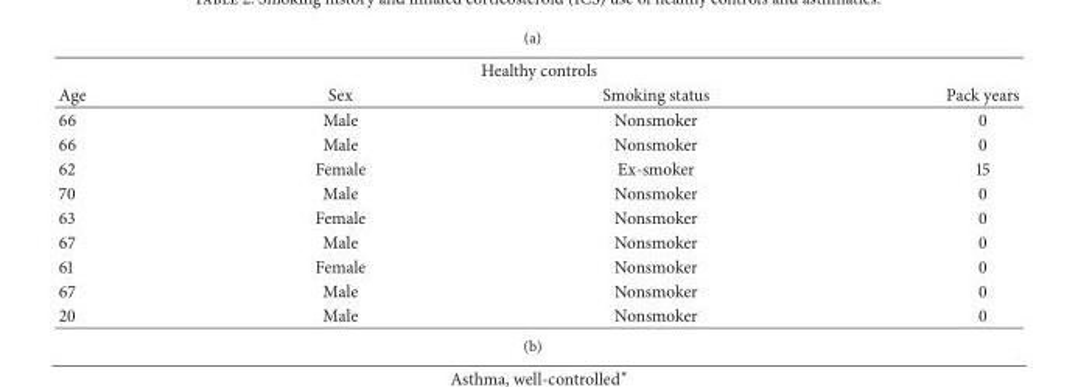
<table><thead><tr><td colspan="4">Healthy controls</td></tr><tr><td>Age</td><td>Sex</td><td>Smoking status</td><td>Pack years</td></tr></thead><tbody><tr><td>66</td><td>Male</td><td>Nonsmoker</td><td>0</td></tr><tr><td>66</td><td>Male</td><td>Nonsmoker</td><td>0</td></tr><tr><td>62</td><td>Female</td><td>Ex-smoker</td><td>15</td></tr><tr><td>70</td><td>Male</td><td>Nonsmoker</td><td>0</td></tr><tr><td>63</td><td>Female</td><td>Nonsmoker</td><td>0</td></tr><tr><td>67</td><td>Male</td><td>Nonsmoker</td><td>0</td></tr><tr><td>61</td><td>Female</td><td>Nonsmoker</td><td>0</td></tr><tr><td>67</td><td>Male</td><td>Nonsmoker</td><td>0</td></tr><tr><td>20</td><td>Male</td><td>Nonsmoker</td><td>0</td></tr></tbody></table>